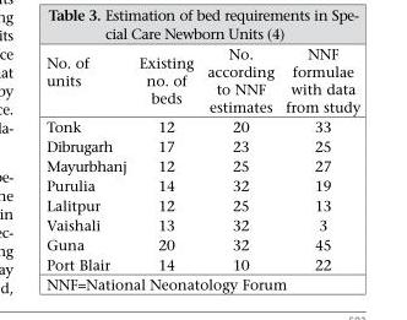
<table><thead><tr><td>No. of units</td><td>Existing no. of beds</td><td>No. according to NNF estimates</td><td>NNF formulae with data from study</td></tr></thead><tbody><tr><td>Tonk</td><td>12</td><td>20</td><td>33</td></tr><tr><td>Dibrugarh</td><td>17</td><td>23</td><td>25</td></tr><tr><td>Mayurbhanj</td><td>12</td><td>25</td><td>27</td></tr><tr><td>Purulia</td><td>14</td><td>32</td><td>19</td></tr><tr><td>Lalitpur</td><td>12</td><td>25</td><td>13</td></tr><tr><td>Vaishali</td><td>13</td><td>32</td><td>3</td></tr><tr><td>Guna</td><td>20</td><td>32</td><td>45</td></tr><tr><td>Port Blair</td><td>14</td><td>10</td><td>22</td></tr></tbody></table>